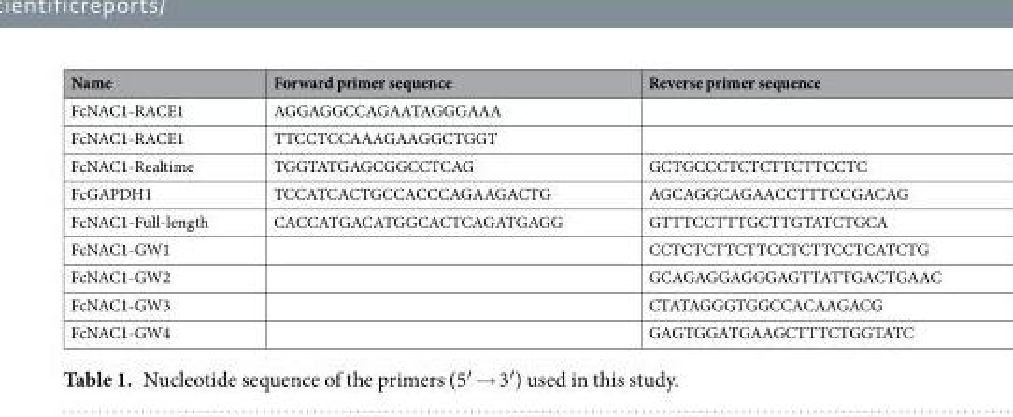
<table><thead><tr><td>Name</td><td>Forward primer sequence</td><td>Reverse primer sequence</td></tr></thead><tbody><tr><td>FcNAC1-RACE1</td><td>AGGAGGCCAGAATAGGGAAA</td><td></td></tr><tr><td>FcNAC1-RACE1</td><td>TTCCTCCAAAGAAGGCTGGT</td><td></td></tr><tr><td>FcNAC1-Realtime</td><td>TGGTATGAGCGGCCTCAG</td><td>GCTGCCCTCTCTTCTTCCTC</td></tr><tr><td>FcGAPDH1</td><td>TCCATCACTGCCACCCAGAAGACTG</td><td>AGCAGGCAGAACCTTTCCGACAG</td></tr><tr><td>FcNAC1-Full-length</td><td>CACCATGACATGGCACTCAGATGAGG</td><td>GTTTCCTTTGCTTGTATCTGCA</td></tr><tr><td>FcNAC1-GW1</td><td></td><td>CCTCTCTTCTTCCTCTTCCTCATCTG</td></tr><tr><td>FcNAC1-GW2</td><td></td><td>GCAGAGGAGGGAGTTATTGACTGAAC</td></tr><tr><td>FcNAC1-GW3</td><td></td><td>CTATAGGGTGGCCACAAGACG</td></tr><tr><td>FcNAC1-GW4</td><td></td><td>GAGTGGATGAAGCTTTCTGGTATC</td></tr></tbody></table>